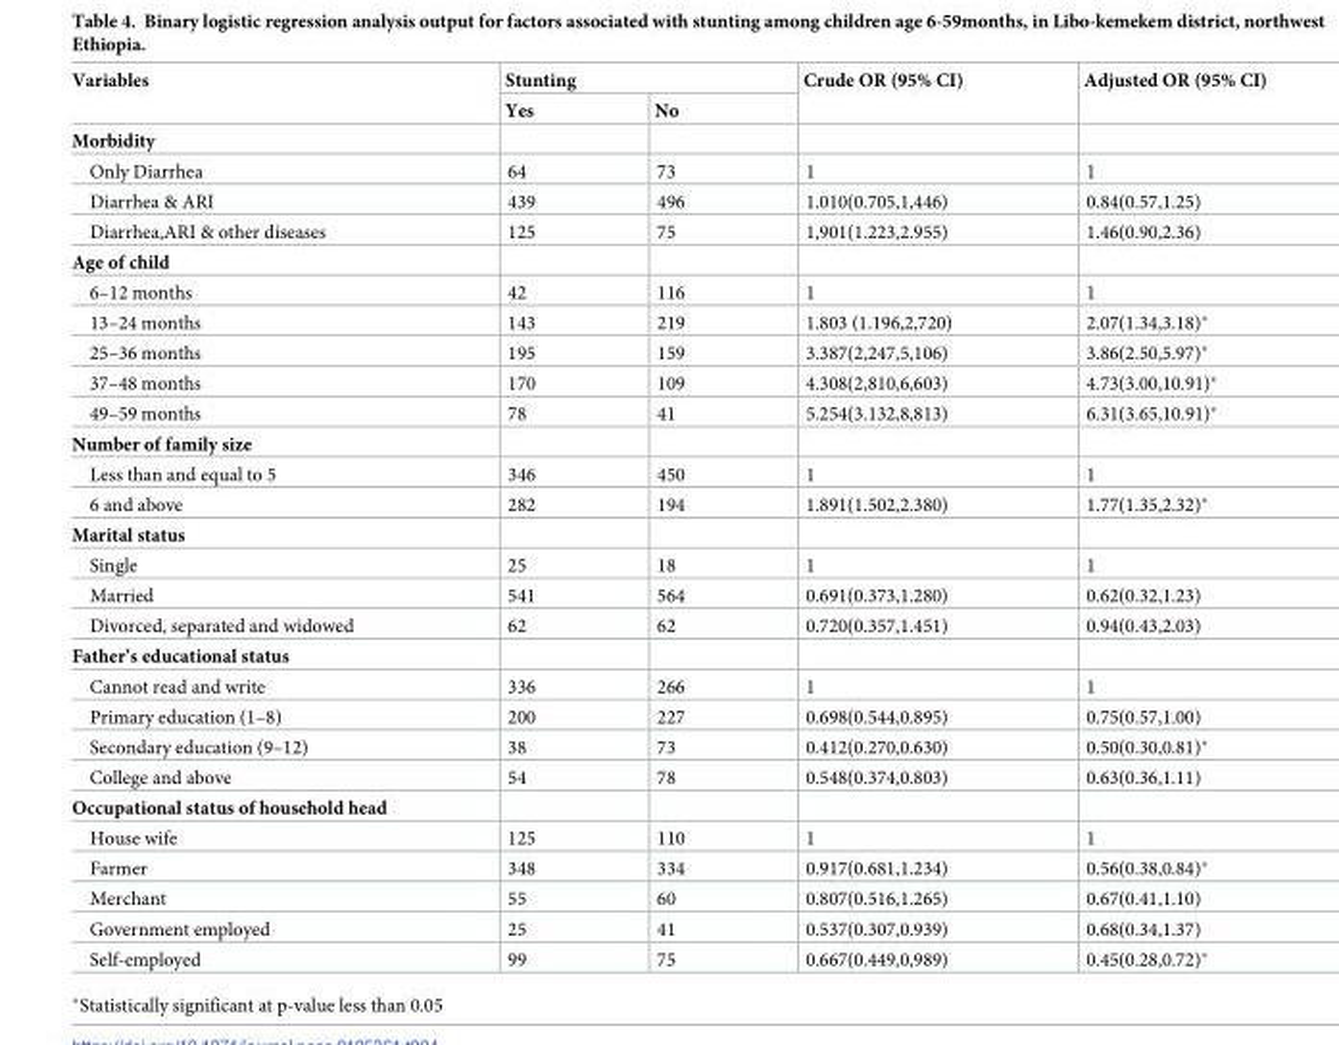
<table><thead><tr><td rowspan="2">Variables</td><td colspan="2">Stunting</td><td rowspan="2">Crude OR (95% CI)</td><td rowspan="2">Adjusted OR (95% CI)</td></tr><tr><td>Yes</td><td>No</td></tr></thead><tbody><tr><td colspan="5">Morbidity</td></tr><tr><td>Only Diarrhea</td><td>64</td><td>73</td><td>1</td><td>1</td></tr><tr><td>Diarrhea &amp; ARI</td><td>439</td><td>496</td><td>1.010(0.705,1,446)</td><td>0.84(0.57,1.25)</td></tr><tr><td>Diarrhea,ARI &amp; other diseases</td><td>125</td><td>75</td><td>1,901(1.223,2.955)</td><td>1.46(0.90,2.36)</td></tr><tr><td colspan="5">Age of child</td></tr><tr><td>6–12 months</td><td>42</td><td>116</td><td>1</td><td>1</td></tr><tr><td>13–24 months</td><td>143</td><td>219</td><td>1.803 (1.196,2,720)</td><td>2.07(1.34,3.18)*</td></tr><tr><td>25–36 months</td><td>195</td><td>159</td><td>3.387(2,247,5,106)</td><td>3.86(2.50,5.97)*</td></tr><tr><td>37–48 months</td><td>170</td><td>109</td><td>4.308(2,810,6,603)</td><td>4.73(3.00,10.91)*</td></tr><tr><td>49–59 months</td><td>78</td><td>41</td><td>5.254(3.132,8,813)</td><td>6.31(3.65,10.91)*</td></tr><tr><td colspan="5">Number of family size</td></tr><tr><td>Less than and equal to 5</td><td>346</td><td>450</td><td>1</td><td>1</td></tr><tr><td>6 and above</td><td>282</td><td>194</td><td>1.891(1.502,2.380)</td><td>1.77(1.35,2.32)*</td></tr><tr><td colspan="5">Marital status</td></tr><tr><td>Single</td><td>25</td><td>18</td><td>1</td><td>1</td></tr><tr><td>Married</td><td>541</td><td>564</td><td>0.691(0.373,1.280)</td><td>0.62(0.32,1.23)</td></tr><tr><td>Divorced, separated and widowed</td><td>62</td><td>62</td><td>0.720(0.357,1.451)</td><td>0.94(0.43,2.03)</td></tr><tr><td colspan="5">Father’s educational status</td></tr><tr><td>Cannot read and write</td><td>336</td><td>266</td><td>1</td><td>1</td></tr><tr><td>Primary education (1–8)</td><td>200</td><td>227</td><td>0.698(0.544,0.895)</td><td>0.75(0.57,1.00)</td></tr><tr><td>Secondary education (9–12)</td><td>38</td><td>73</td><td>0.412(0.270,0.630)</td><td>0.50(0.30,0.81)*</td></tr><tr><td>College and above</td><td>54</td><td>78</td><td>0.548(0.374,0.803)</td><td>0.63(0.36,1.11)</td></tr><tr><td colspan="5">Occupational status of household head</td></tr><tr><td>House wife</td><td>125</td><td>110</td><td>1</td><td>1</td></tr><tr><td>Farmer</td><td>348</td><td>334</td><td>0.917(0.681,1.234)</td><td>0.56(0.38,0.84)*</td></tr><tr><td>Merchant</td><td>55</td><td>60</td><td>0.807(0.516,1.265)</td><td>0.67(0.41,1.10)</td></tr><tr><td>Government employed</td><td>25</td><td>41</td><td>0.537(0.307,0.939)</td><td>0.68(0.34,1.37)</td></tr><tr><td>Self-employed</td><td>99</td><td>75</td><td>0.667(0.449,0,989)</td><td>0.45(0.28,0.72)*</td></tr></tbody></table>